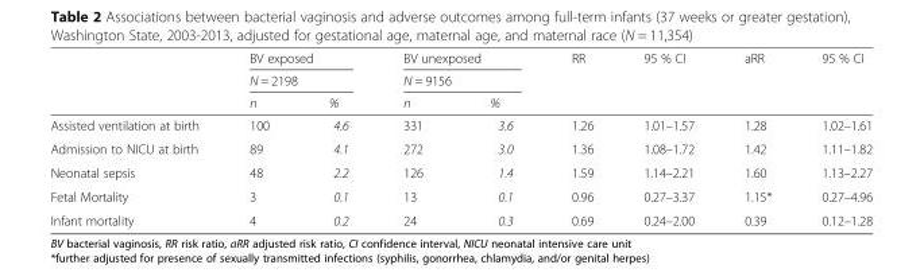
<table><thead><tr><td rowspan="3"></td><td rowspan="2" colspan="2">BV exposed N = 2198</td><td rowspan="2" colspan="2">BV unexposed N = 9156</td><td rowspan="3">RR</td><td rowspan="3">95 % CI</td><td rowspan="3">aRR</td><td rowspan="3">95 % CI</td></tr><tr></tr><tr><td>n</td><td>%</td><td>n</td><td>%</td></tr></thead><tbody><tr><td>Assisted ventilation at birth</td><td>100</td><td>4.6</td><td>331</td><td>3.6</td><td>1.26</td><td>1.01–1.57</td><td>1.28</td><td>1.02–1.61</td></tr><tr><td>Admission to NICU at birth</td><td>89</td><td>4.1</td><td>272</td><td>3.0</td><td>1.36</td><td>1.08–1.72</td><td>1.42</td><td>1.11–1.82</td></tr><tr><td>Neonatal sepsis</td><td>48</td><td>2.2</td><td>126</td><td>1.4</td><td>1.59</td><td>1.14–2.21</td><td>1.60</td><td>1.13–2.27</td></tr><tr><td>Fetal Mortality</td><td>3</td><td>0.1</td><td>13</td><td>0.1</td><td>0.96</td><td>0.27–3.37</td><td>1.15*</td><td>0.27–4.96</td></tr><tr><td>Infant mortality</td><td>4</td><td>0.2</td><td>24</td><td>0.3</td><td>0.69</td><td>0.24–2.00</td><td>0.39</td><td>0.12–1.28</td></tr></tbody></table>